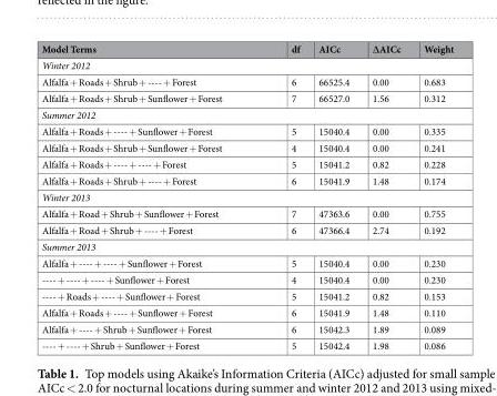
<table><thead><tr><td>Model Terms</td><td>df</td><td>AICc</td><td>∆AICc</td><td>Weight</td></tr></thead><tbody><tr><td colspan="5">Winter 2012</td></tr><tr><td>Alfalfa + Roads + Shrub + ---- + Forest</td><td>6</td><td>66525.4</td><td>0.00</td><td>0.683</td></tr><tr><td>Alfalfa + Roads + Shrub + Sunflower + Forest</td><td>7</td><td>66527.0</td><td>1.56</td><td>0.312</td></tr><tr><td colspan="5">Summer 2012</td></tr><tr><td>Alfalfa + Roads + ---- + Sunflower + Forest</td><td>5</td><td>15040.4</td><td>0.00</td><td>0.335</td></tr><tr><td>Alfalfa + Roads + Shrub + Sunflower + Forest</td><td>4</td><td>15040.4</td><td>0.00</td><td>0.241</td></tr><tr><td>Alfalfa + Roads + ---- + ---- + Forest</td><td>5</td><td>15041.2</td><td>0.82</td><td>0.228</td></tr><tr><td>Alfalfa + Roads + Shrub + ---- + Forest</td><td>6</td><td>15041.9</td><td>1.48</td><td>0.174</td></tr><tr><td colspan="5">Winter 2013</td></tr><tr><td>Alfalfa + Road + Shrub + Sunflower + Forest</td><td>7</td><td>47363.6</td><td>0.00</td><td>0.755</td></tr><tr><td>Alfalfa + Road + Shrub + ---- + Forest</td><td>6</td><td>47366.4</td><td>2.74</td><td>0.192</td></tr><tr><td colspan="5">Summer 2013</td></tr><tr><td>Alfalfa + ---- + ---- + Sunflower + Forest</td><td>5</td><td>15040.4</td><td>0.00</td><td>0.230</td></tr><tr><td>---- + ---- + ---- + Sunflower + Forest</td><td>4</td><td>15040.4</td><td>0.00</td><td>0.230</td></tr><tr><td>---- + Roads + ---- + Sunflower + Forest</td><td>5</td><td>15041.2</td><td>0.82</td><td>0.153</td></tr><tr><td>Alfalfa + Roads + ---- + Sunflower + Forest</td><td>6</td><td>15041.9</td><td>1.48</td><td>0.110</td></tr><tr><td>Alfalfa + ---- + Shrub + Sunflower + Forest</td><td>6</td><td>15042.3</td><td>1.89</td><td>0.089</td></tr><tr><td>---- + ---- + Shrub + Sunflower + Forest</td><td>5</td><td>15042.4</td><td>1.98</td><td>0.086</td></tr></tbody></table>